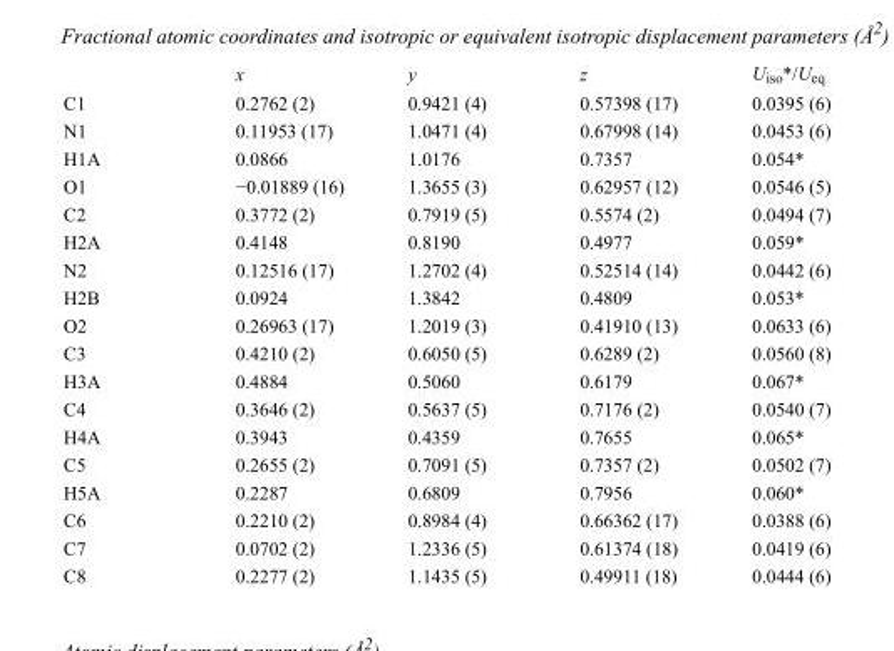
<table><thead><tr><td></td><td>x</td><td>y</td><td>z</td><td>U<sub>iso</sub>*/U<sub>eq</sub></td></tr></thead><tbody><tr><td>C1</td><td>0.2762 (2)</td><td>0.9421 (4)</td><td>0.57398 (17)</td><td>0.0395 (6)</td></tr><tr><td>N1</td><td>0.11953 (17)</td><td>1.0471 (4)</td><td>0.67998 (14)</td><td>0.0453 (6)</td></tr><tr><td>H1A</td><td>0.0866</td><td>1.0176</td><td>0.7357</td><td>0.054*</td></tr><tr><td>O1</td><td>−0.01889 (16)</td><td>1.3655 (3)</td><td>0.62957 (12)</td><td>0.0546 (5)</td></tr><tr><td>C2</td><td>0.3772 (2)</td><td>0.7919 (5)</td><td>0.5574 (2)</td><td>0.0494 (7)</td></tr><tr><td>H2A</td><td>0.4148</td><td>0.8190</td><td>0.4977</td><td>0.059*</td></tr><tr><td>N2</td><td>0.12516 (17)</td><td>1.2702 (4)</td><td>0.52514 (14)</td><td>0.0442 (6)</td></tr><tr><td>H2B</td><td>0.0924</td><td>1.3842</td><td>0.4809</td><td>0.053*</td></tr><tr><td>O2</td><td>0.26963 (17)</td><td>1.2019 (3)</td><td>0.41910 (13)</td><td>0.0633 (6)</td></tr><tr><td>C3</td><td>0.4210 (2)</td><td>0.6050 (5)</td><td>0.6289 (2)</td><td>0.0560 (8)</td></tr><tr><td>H3A</td><td>0.4884</td><td>0.5060</td><td>0.6179</td><td>0.067*</td></tr><tr><td>C4</td><td>0.3646 (2)</td><td>0.5637 (5)</td><td>0.7176 (2)</td><td>0.0540 (7)</td></tr><tr><td>H4A</td><td>0.3943</td><td>0.4359</td><td>0.7655</td><td>0.065*</td></tr><tr><td>C5</td><td>0.2655 (2)</td><td>0.7091 (5)</td><td>0.7357 (2)</td><td>0.0502 (7)</td></tr><tr><td>H5A</td><td>0.2287</td><td>0.6809</td><td>0.7956</td><td>0.060*</td></tr><tr><td>C6</td><td>0.2210 (2)</td><td>0.8984 (4)</td><td>0.66362 (17)</td><td>0.0388 (6)</td></tr><tr><td>C7</td><td>0.0702 (2)</td><td>1.2336 (5)</td><td>0.61374 (18)</td><td>0.0419 (6)</td></tr><tr><td>C8</td><td>0.2277 (2)</td><td>1.1435 (5)</td><td>0.49911 (18)</td><td>0.0444 (6)</td></tr></tbody></table>